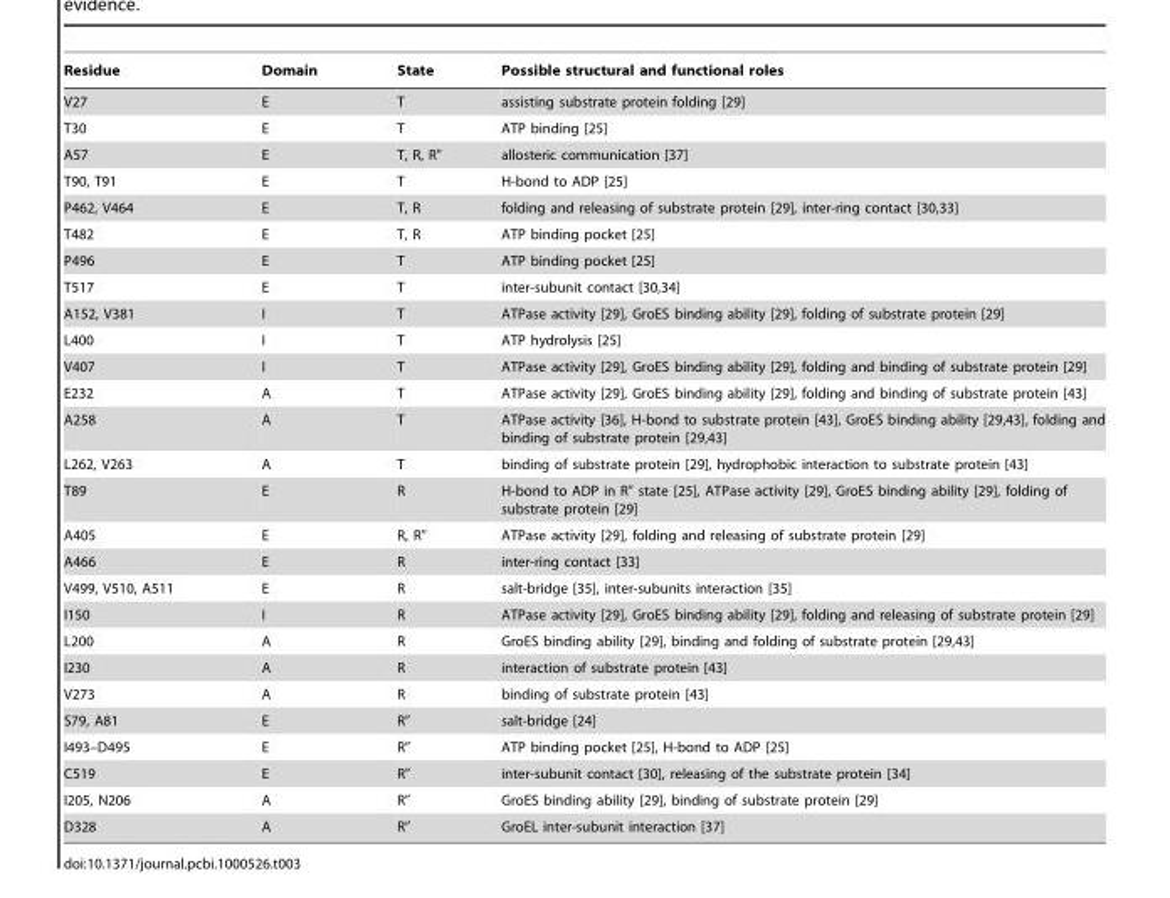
<table><thead><tr><td>Residue</td><td>Domain</td><td>State</td><td>Possible structural and functional roles</td></tr></thead><tbody><tr><td>V27</td><td>E</td><td>T</td><td>assisting substrate protein folding [29]</td></tr><tr><td>T30</td><td>E</td><td>T</td><td>ATP binding [25]</td></tr><tr><td>A57</td><td>E</td><td>T, R, R″</td><td>allosteric communication [37]</td></tr><tr><td>T90, T91</td><td>E</td><td>T</td><td>H-bond to ADP [25]</td></tr><tr><td>P462, V464</td><td>E</td><td>T, R</td><td>folding and releasing of substrate protein [29], inter-ring contact [30,33]</td></tr><tr><td>T482</td><td>E</td><td>T, R</td><td>ATP binding pocket [25]</td></tr><tr><td>P496</td><td>E</td><td>T</td><td>ATP binding pocket [25]</td></tr><tr><td>T517</td><td>E</td><td>T</td><td>inter-subunit contact [30,34]</td></tr><tr><td>A152, V381</td><td>I</td><td>T</td><td>ATPase activity [29], GroES binding ability [29], folding of substrate protein [29]</td></tr><tr><td>L400</td><td>I</td><td>T</td><td>ATP hydrolysis [25]</td></tr><tr><td>V407</td><td>I</td><td>T</td><td>ATPase activity [29], GroES binding ability [29], folding and binding of substrate protein [29]</td></tr><tr><td>E232</td><td>A</td><td>T</td><td>ATPase activity [29], GroES binding ability [29], folding and binding of substrate protein [43]</td></tr><tr><td>A258</td><td>A</td><td>T</td><td>ATPase activity [36], H-bond to substrate protein [43], GroES binding ability [29,43], folding and binding of substrate protein [29,43]</td></tr><tr><td>L262, V263</td><td>A</td><td>T</td><td>binding of substrate protein [29], hydrophobic interaction to substrate protein [43]</td></tr><tr><td>T89</td><td>E</td><td>R</td><td>H-bond to ADP in R″ state [25], ATPase activity [29], GroES binding ability [29], folding of substrate protein [29]</td></tr><tr><td>A405</td><td>E</td><td>R, R″</td><td>ATPase activity [29], folding and releasing of substrate protein [29]</td></tr><tr><td>A466</td><td>E</td><td>R</td><td>inter-ring contact [33]</td></tr><tr><td>V499, V510, A511</td><td>E</td><td>R</td><td>salt-bridge [35], inter-subunits interaction [35]</td></tr><tr><td>I150</td><td>I</td><td>R</td><td>ATPase activity [29], GroES binding ability [29], folding and releasing of substrate protein [29]</td></tr><tr><td>L200</td><td>A</td><td>R</td><td>GroES binding ability [29], binding and folding of substrate protein [29,43]</td></tr><tr><td>I230</td><td>A</td><td>R</td><td>interaction of substrate protein [43]</td></tr><tr><td>V273</td><td>A</td><td>R</td><td>binding of substrate protein [43]</td></tr><tr><td>S79, A81</td><td>E</td><td>R″</td><td>salt-bridge [24]</td></tr><tr><td>I493–D495</td><td>E</td><td>R″</td><td>ATP binding pocket [25], H-bond to ADP [25]</td></tr><tr><td>C519</td><td>E</td><td>R″</td><td>inter-subunit contact [30], releasing of the substrate protein [34]</td></tr><tr><td>I205, N206</td><td>A</td><td>R″</td><td>GroES binding ability [29], binding of substrate protein [29]</td></tr><tr><td>D328</td><td>A</td><td>R″</td><td>GroEL inter-subunit interaction [37]</td></tr></tbody></table>